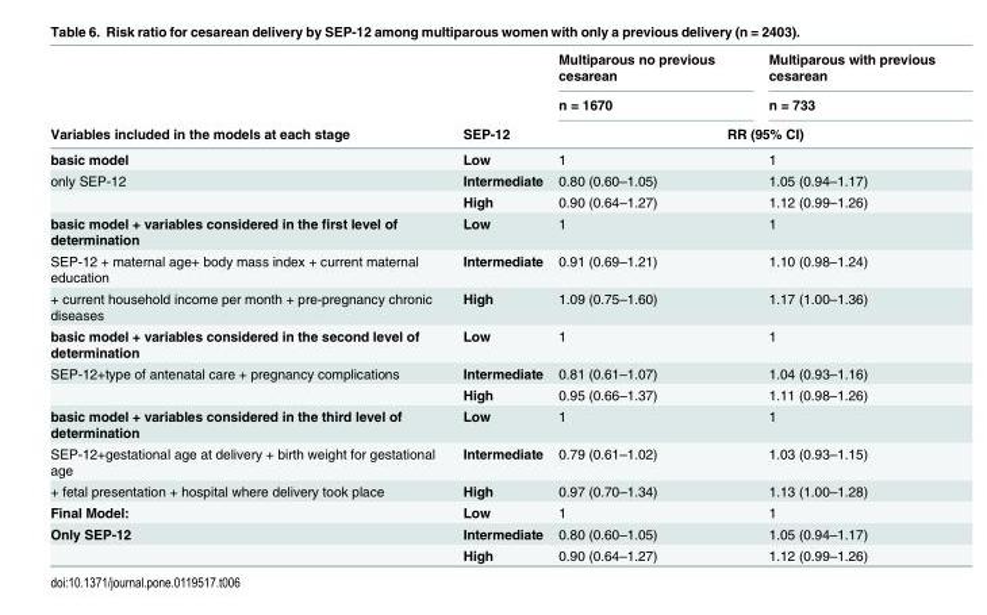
<table><thead><tr><td rowspan="3">Variables included in the models at each stage</td><td rowspan="3">SEP-12</td><td rowspan="2">Multiparous no previous cesarean n = 1670</td><td rowspan="2">Multiparous with previous cesarean n = 733</td></tr><tr></tr><tr><td colspan="2">RR (95% CI)</td></tr></thead><tbody><tr><td>basic model</td><td>Low</td><td>1</td><td>1</td></tr><tr><td rowspan="2">only SEP-12</td><td>Intermediate</td><td>0.80 (0.60–1.05)</td><td>1.05 (0.94–1.17)</td></tr><tr><td>High</td><td>0.90 (0.64–1.27)</td><td>1.12 (0.99–1.26)</td></tr><tr><td>basic model + variables considered in the first level of determination</td><td>Low</td><td>1</td><td>1</td></tr><tr><td>SEP-12 + maternal age+ body mass index + current maternal education</td><td>Intermediate</td><td>0.91 (0.69–1.21)</td><td>1.10 (0.98–1.24)</td></tr><tr><td>+ current household income per month + pre-pregnancy chronic diseases</td><td>High</td><td>1.09 (0.75–1.60)</td><td>1.17 (1.00–1.36)</td></tr><tr><td>basic model + variables considered in the second level of determination</td><td>Low</td><td>1</td><td>1</td></tr><tr><td rowspan="2">SEP-12+type of antenatal care + pregnancy complications</td><td>Intermediate</td><td>0.81 (0.61–1.07)</td><td>1.04 (0.93–1.16)</td></tr><tr><td>High</td><td>0.95 (0.66–1.37)</td><td>1.11 (0.98–1.26)</td></tr><tr><td>basic model + variables considered in the third level of determination</td><td>Low</td><td>1</td><td>1</td></tr><tr><td>SEP-12+gestational age at delivery + birth weight for gestational age</td><td>Intermediate</td><td>0.79 (0.61–1.02)</td><td>1.03 (0.93–1.15)</td></tr><tr><td>+ fetal presentation + hospital where delivery took place</td><td>High</td><td>0.97 (0.70–1.34)</td><td>1.13 (1.00–1.28)</td></tr><tr><td>Final Model:</td><td>Low</td><td>1</td><td>1</td></tr><tr><td rowspan="2">Only SEP-12</td><td>Intermediate</td><td>0.80 (0.60–1.05)</td><td>1.05 (0.94–1.17)</td></tr><tr><td>High</td><td>0.90 (0.64–1.27)</td><td>1.12 (0.99–1.26)</td></tr></tbody></table>